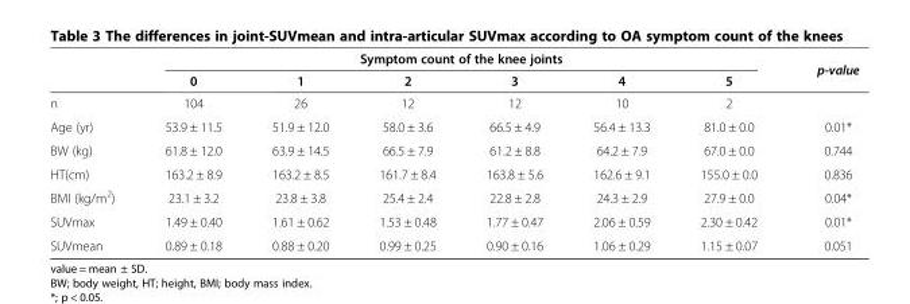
<table><thead><tr><td rowspan="2"></td><td colspan="6">Symptom count of the knee joints</td><td rowspan="2">p-value</td></tr><tr><td>0</td><td>1</td><td>2</td><td>3</td><td>4</td><td>5</td></tr></thead><tbody><tr><td>n</td><td>104</td><td>26</td><td>12</td><td>12</td><td>10</td><td>2</td><td></td></tr><tr><td>Age (yr)</td><td>53.9 ± 11.5</td><td>51.9 ± 12.0</td><td>58.0 ± 3.6</td><td>66.5 ± 4.9</td><td>56.4 ± 13.3</td><td>81.0 ± 0.0</td><td>0.01*</td></tr><tr><td>BW (kg)</td><td>61.8 ± 12.0</td><td>63.9 ± 14.5</td><td>66.5 ± 7.9</td><td>61.2 ± 8.8</td><td>64.2 ± 7.9</td><td>67.0 ± 0.0</td><td>0.744</td></tr><tr><td>HT(cm)</td><td>163.2 ± 8.9</td><td>163.2 ± 8.5</td><td>161.7 ± 8.4</td><td>163.8 ± 5.6</td><td>162.6 ± 9.1</td><td>155.0 ± 0.0</td><td>0.836</td></tr><tr><td>BMI (kg/m<sup>2</sup>)</td><td>23.1 ± 3.2</td><td>23.8 ± 3.8</td><td>25.4 ± 2.4</td><td>22.8 ± 2.8</td><td>24.3 ± 2.9</td><td>27.9 ± 0.0</td><td>0.04*</td></tr><tr><td>SUVmax</td><td>1.49 ± 0.40</td><td>1.61 ± 0.62</td><td>1.53 ± 0.48</td><td>1.77 ± 0.47</td><td>2.06 ± 0.59</td><td>2.30 ± 0.42</td><td>0.01*</td></tr><tr><td>SUVmean</td><td>0.89 ± 0.18</td><td>0.88 ± 0.20</td><td>0.99 ± 0.25</td><td>0.90 ± 0.16</td><td>1.06 ± 0.29</td><td>1.15 ± 0.07</td><td>0.051</td></tr></tbody></table>